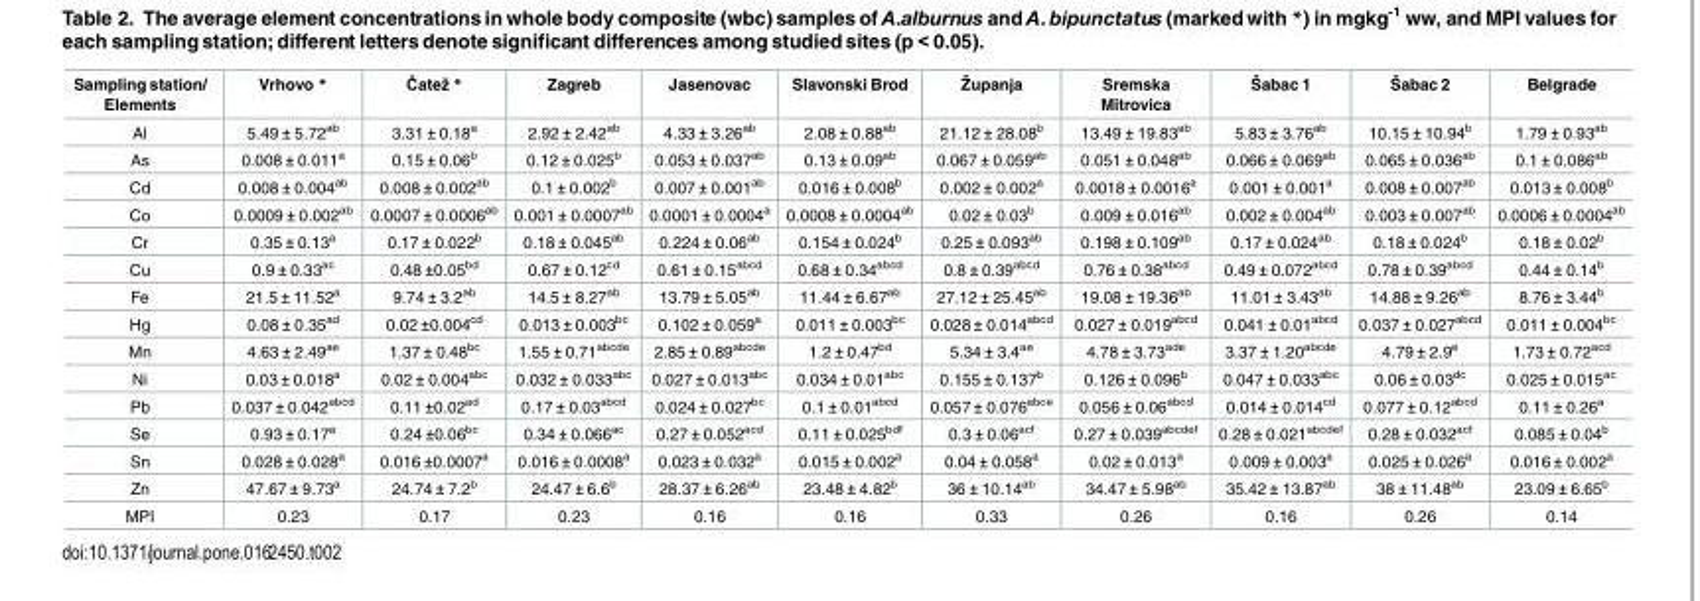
<table><thead><tr><td>Sampling station/ Elements</td><td>Vrhovo *</td><td>Čatež *</td><td>Zagreb</td><td>Jasenovac</td><td>Slavonski Brod</td><td>Županja</td><td>Sremska Mitrovica</td><td>Šabac 1</td><td>Šabac 2</td><td>Belgrade</td></tr></thead><tbody><tr><td>Al</td><td>5.49 ± 5.72<sup>ab</sup></td><td>3.31 ± 0.18<sup>a</sup></td><td>2.92 ± 2.42<sup>ab</sup></td><td>4.33 ± 3.26<sup>ab</sup></td><td>2.08 ± 0.88<sup>ab</sup></td><td>21.12 ± 28.08<sup>b</sup></td><td>13.49 ± 19.83<sup>ab</sup></td><td>5.83 ± 3.76<sup>ab</sup></td><td>10.15 ± 10.94<sup>b</sup></td><td>1.79 ± 0.93<sup>ab</sup></td></tr><tr><td>As</td><td>0.008 ± 0.011<sup>a</sup></td><td>0.15 ± 0.06<sup>b</sup></td><td>0.12 ± 0.025<sup>b</sup></td><td>0.053 ± 0.037<sup>ab</sup></td><td>0.13 ± 0.09<sup>ab</sup></td><td>0.067 ± 0.059<sup>ab</sup></td><td>0.051 ± 0.048<sup>ab</sup></td><td>0.066 ± 0.069<sup>ab</sup></td><td>0.065 ± 0.036<sup>ab</sup></td><td>0.1 ± 0.086<sup>ab</sup></td></tr><tr><td>Cd</td><td>0.008 ± 0.004<sup>ab</sup></td><td>0.008 ± 0.002<sup>ab</sup></td><td>0.1 ± 0.002<sup>b</sup></td><td>0.007 ± 0.001<sup>ab</sup></td><td>0.016 ± 0.008<sup>b</sup></td><td>0.002 ± 0.002<sup>a</sup></td><td>0.0018 ± 0.0016<sup>a</sup></td><td>0.001 ± 0.001<sup>a</sup></td><td>0.008 ± 0.007<sup>ab</sup></td><td>0.013 ± 0.008<sup>b</sup></td></tr><tr><td>Co</td><td>0.0009 ± 0.002<sup>ab</sup></td><td>0.0007 ± 0.0006<sup>ab</sup></td><td>0.001 ± 0.0007<sup>ab</sup></td><td>0.0001 ± 0.0004<sup>a</sup></td><td>0.0008 ± 0.0004<sup>ab</sup></td><td>0.02 ± 0.03<sup>b</sup></td><td>0.009 ± 0.016<sup>ab</sup></td><td>0.002 ± 0.004<sup>ab</sup></td><td>0.003 ± 0.007<sup>ab</sup></td><td>0.0006 ± 0.0004<sup>ab</sup></td></tr><tr><td>Cr</td><td>0.35 ± 0.13<sup>a</sup></td><td>0.17 ± 0.022<sup>b</sup></td><td>0.18 ± 0.045<sup>ab</sup></td><td>0.224 ± 0.06<sup>ab</sup></td><td>0.154 ± 0.024<sup>b</sup></td><td>0.25 ± 0.093<sup>ab</sup></td><td>0.198 ± 0.109<sup>ab</sup></td><td>0.17 ± 0.024<sup>ab</sup></td><td>0.18 ± 0.024<sup>b</sup></td><td>0.18 ± 0.02<sup>b</sup></td></tr><tr><td>Cu</td><td>0.9 ± 0.33<sup>ac</sup></td><td>0.48 ±0.05<sup>bd</sup></td><td>0.67 ± 0.12<sup>cd</sup></td><td>0.61 ± 0.15<sup>abcd</sup></td><td>0.68 ± 0.34<sup>abcd</sup></td><td>0.8 ± 0.39<sup>abcd</sup></td><td>0.76 ± 0.38<sup>abcd</sup></td><td>0.49 ± 0.072<sup>abcd</sup></td><td>0.78 ± 0.39<sup>abcd</sup></td><td>0.44 ± 0.14<sup>b</sup></td></tr><tr><td>Fe</td><td>21.5 ± 11.52<sup>a</sup></td><td>9.74 ± 3.2<sup>ab</sup></td><td>14.5 ± 8.27<sup>ab</sup></td><td>13.79 ± 5.05<sup>ab</sup></td><td>11.44 ± 6.67<sup>ab</sup></td><td>27.12 ± 25.45<sup>ab</sup></td><td>19.08 ± 19.36<sup>ab</sup></td><td>11.01 ± 3.43<sup>ab</sup></td><td>14.88 ± 9.26<sup>ab</sup></td><td>8.76 ± 3.44<sup>b</sup></td></tr><tr><td>Hg</td><td>0.08 ± 0.35<sup>ad</sup></td><td>0.02 ±0.004<sup>cd</sup></td><td>0.013 ± 0.003<sup>bc</sup></td><td>0.102 ± 0.059<sup>a</sup></td><td>0.011 ± 0.003<sup>bc</sup></td><td>0.028 ± 0.014<sup>abcd</sup></td><td>0.027 ± 0.019<sup>abcd</sup></td><td>0.041 ± 0.01<sup>abcd</sup></td><td>0.037 ± 0.027<sup>abcd</sup></td><td>0.011 ± 0.004<sup>bc</sup></td></tr><tr><td>Mn</td><td>4.63 ± 2.49<sup>ae</sup></td><td>1.37 ± 0.48<sup>bc</sup></td><td>1.55 ± 0.71<sup>abcde</sup></td><td>2.85 ± 0.89<sup>abcde</sup></td><td>1.2 ± 0.47<sup>bd</sup></td><td>5.34 ± 3.4<sup>ae</sup></td><td>4.78 ± 3.73<sup>ade</sup></td><td>3.37 ± 1.20<sup>abcde</sup></td><td>4.79 ± 2.9<sup>e</sup></td><td>1.73 ± 0.72<sup>acd</sup></td></tr><tr><td>Ni</td><td>0.03 ± 0.018<sup>a</sup></td><td>0.02 ± 0.004<sup>abc</sup></td><td>0.032 ± 0.033<sup>abc</sup></td><td>0.027 ± 0.013<sup>abc</sup></td><td>0.034 ± 0.01<sup>abc</sup></td><td>0.155 ± 0.137<sup>b</sup></td><td>0.126 ± 0.096<sup>b</sup></td><td>0.047 ± 0.033<sup>abc</sup></td><td>0.06 ± 0.03<sup>dc</sup></td><td>0.025 ± 0.015<sup>ac</sup></td></tr><tr><td>Pb</td><td>0.037 ± 0.042<sup>abcd</sup></td><td>0.11 ±0.02<sup>ad</sup></td><td>0.17 ± 0.03<sup>abcd</sup></td><td>0.024 ± 0.027<sup>bc</sup></td><td>0.1 ± 0.01<sup>abcd</sup></td><td>0.057 ± 0.076<sup>abce</sup></td><td>0.056 ± 0.06<sup>abcd</sup></td><td>0.014 ± 0.014<sup>cd</sup></td><td>0.077 ± 0.12<sup>abcd</sup></td><td>0.11 ± 0.26<sup>a</sup></td></tr><tr><td>Se</td><td>0.93 ± 0.17<sup>a</sup></td><td>0.24 ±0.06<sup>bc</sup></td><td>0.34 ± 0.066<sup>ac</sup></td><td>0.27 ± 0.052<sup>acd</sup></td><td>0.11 ± 0.025<sup>bdf</sup></td><td>0.3 ± 0.06<sup>acf</sup></td><td>0.27 ± 0.039<sup>abcdef</sup></td><td>0.28 ± 0.021<sup>abcdef</sup></td><td>0.28 ± 0.032<sup>acf</sup></td><td>0.085 ± 0.04<sup>b</sup></td></tr><tr><td>Sn</td><td>0.028 ± 0.028<sup>a</sup></td><td>0.016 ±0.0007<sup>a</sup></td><td>0.016 ± 0.0008<sup>a</sup></td><td>0.023 ± 0.032<sup>a</sup></td><td>0.015 ± 0.002<sup>a</sup></td><td>0.04 ± 0.058<sup>a</sup></td><td>0.02 ± 0.013<sup>a</sup></td><td>0.009 ± 0.003<sup>a</sup></td><td>0.025 ± 0.026<sup>a</sup></td><td>0.016 ± 0.002<sup>a</sup></td></tr><tr><td>Zn</td><td>47.67 ± 9.73<sup>a</sup></td><td>24.74 ± 7.2<sup>b</sup></td><td>24.47 ± 6.6<sup>b</sup></td><td>28.37 ± 6.26<sup>ab</sup></td><td>23.48 ± 4.82<sup>b</sup></td><td>36 ± 10.14<sup>ab</sup></td><td>34.47 ± 5.98<sup>ab</sup></td><td>35.42 ± 13.87<sup>ab</sup></td><td>38 ± 11.48<sup>ab</sup></td><td>23.09 ± 6.65<sup>b</sup></td></tr><tr><td>MPI</td><td>0.23</td><td>0.17</td><td>0.23</td><td>0.16</td><td>0.16</td><td>0.33</td><td>0.26</td><td>0.16</td><td>0.26</td><td>0.14</td></tr></tbody></table>